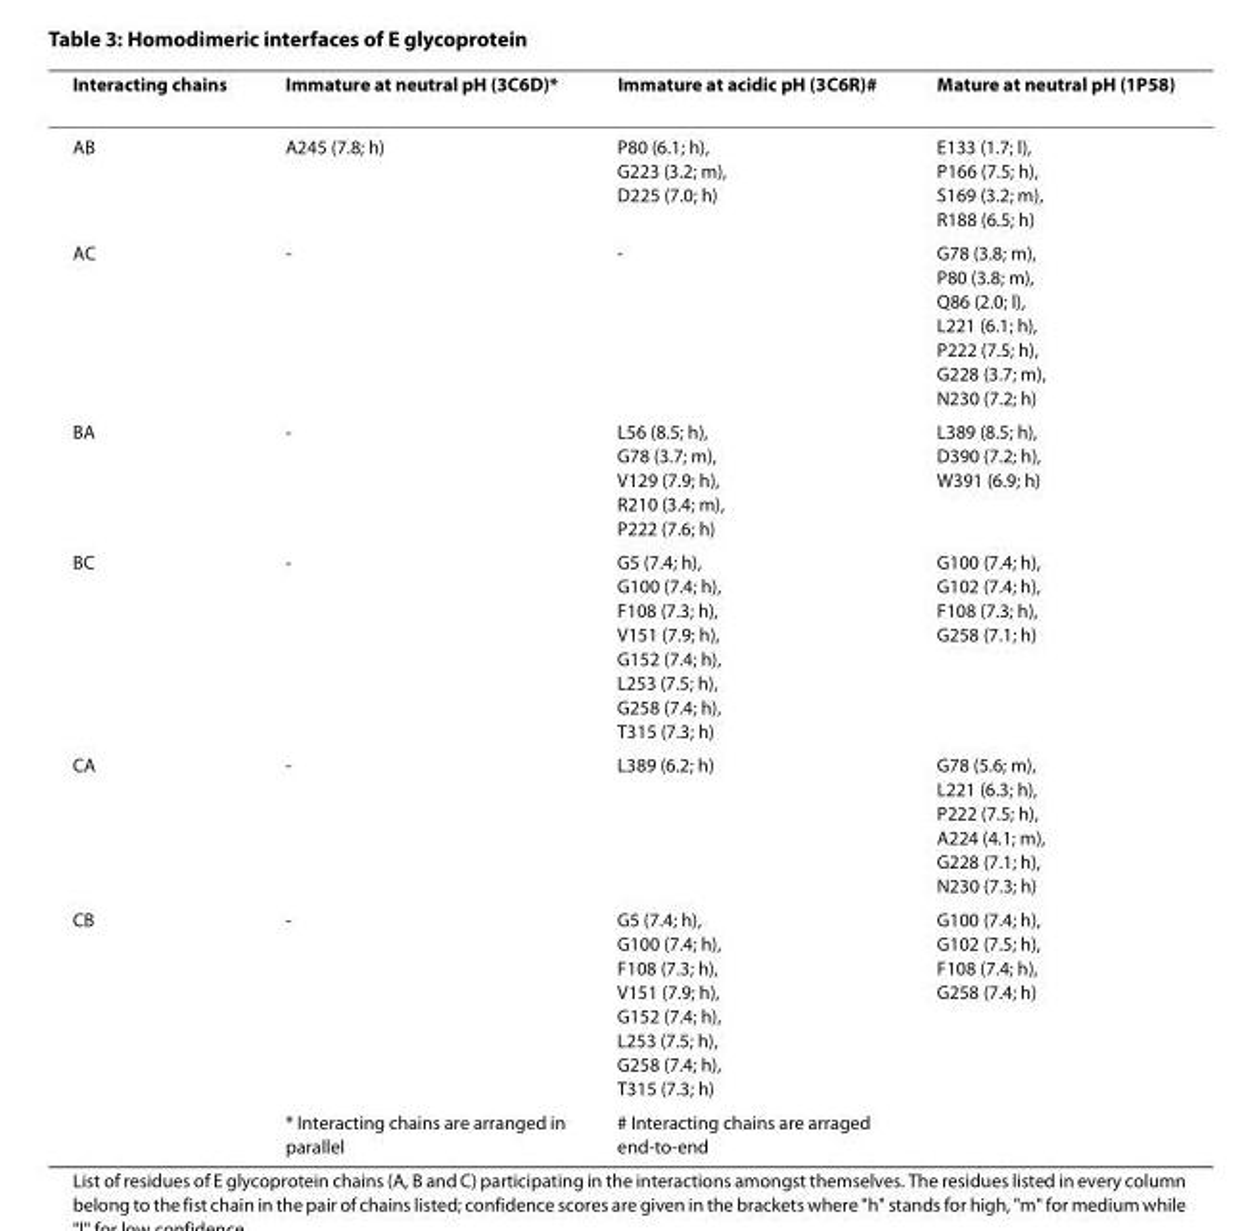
<table><thead><tr><td>Interacting chains</td><td>Immature at neutral pH (3C6D)*</td><td>Immature at acidic pH (3C6R)#</td><td>Mature at neutral pH (1P58)</td></tr></thead><tbody><tr><td>AB</td><td>A245 (7.8; h)</td><td>P80 (6.1; h), G223 (3.2; m), D225 (7.0; h)</td><td>E133 (1.7; l), P166 (7.5; h), S169 (3.2; m), R188 (6.5; h)</td></tr><tr><td>AC</td><td>-</td><td>-</td><td>G78 (3.8; m), P80 (3.8; m), Q86 (2.0; l), L221 (6.1; h), P222 (7.5; h), G228 (3.7; m), N230 (7.2; h)</td></tr><tr><td>BA</td><td>-</td><td>L56 (8.5; h), G78 (3.7; m), V129 (7.9; h), R210 (3.4; m), P222 (7.6; h)</td><td>L389 (8.5; h), D390 (7.2; h), W391 (6.9; h)</td></tr><tr><td>BC</td><td>-</td><td>G5 (7.4; h), G100 (7.4; h), F108 (7.3; h), V151 (7.9; h), G152 (7.4; h), L253 (7.5; h), G258 (7.4; h), T315 (7.3; h)</td><td>G100 (7.4; h), G102 (7.4; h), F108 (7.3; h), G258 (7.1; h)</td></tr><tr><td>CA</td><td>-</td><td>L389 (6.2; h)</td><td>G78 (5.6; m), L221 (6.3; h), P222 (7.5; h), A224 (4.1; m), G228 (7.1; h), N230 (7.3; h)</td></tr><tr><td rowspan="2">CB</td><td>-</td><td>G5 (7.4; h), G100 (7.4; h), F108 (7.3; h), V151 (7.9; h), G152 (7.4; h), L253 (7.5; h), G258 (7.4; h), T315 (7.3; h)</td><td>G100 (7.4; h), G102 (7.5; h), F108 (7.4; h), G258 (7.4; h)</td></tr><tr><td>* Interacting chains are arranged in parallel</td><td># Interacting chains are arraged end-to-end</td><td></td></tr></tbody></table>